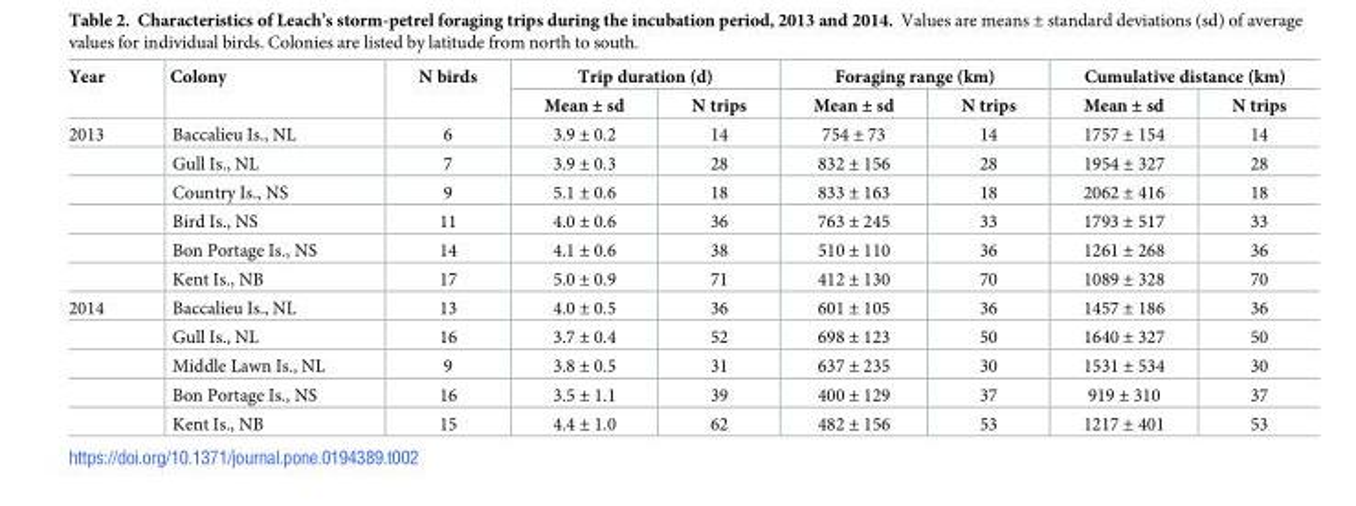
<table><thead><tr><td rowspan="2">Year</td><td rowspan="2">Colony</td><td rowspan="2">N birds</td><td colspan="2">Trip duration (d)</td><td colspan="2">Foraging range (km)</td><td colspan="2">Cumulative distance (km)</td></tr><tr><td>Mean ± sd</td><td>N trips</td><td>Mean ± sd</td><td>N trips</td><td>Mean ± sd</td><td>N trips</td></tr></thead><tbody><tr><td rowspan="6">2013</td><td>Baccalieu Is., NL</td><td>6</td><td>3.9 ± 0.2</td><td>14</td><td>754 ± 73</td><td>14</td><td>1757 ± 154</td><td>14</td></tr><tr><td>Gull Is., NL</td><td>7</td><td>3.9 ± 0.3</td><td>28</td><td>832 ± 156</td><td>28</td><td>1954 ± 327</td><td>28</td></tr><tr><td>Country Is., NS</td><td>9</td><td>5.1 ± 0.6</td><td>18</td><td>833 ± 163</td><td>18</td><td>2062 ± 416</td><td>18</td></tr><tr><td>Bird Is., NS</td><td>11</td><td>4.0 ± 0.6</td><td>36</td><td>763 ± 245</td><td>33</td><td>1793 ± 517</td><td>33</td></tr><tr><td>Bon Portage Is., NS</td><td>14</td><td>4.1 ± 0.6</td><td>38</td><td>510 ± 110</td><td>36</td><td>1261 ± 268</td><td>36</td></tr><tr><td>Kent Is., NB</td><td>17</td><td>5.0 ± 0.9</td><td>71</td><td>412 ± 130</td><td>70</td><td>1089 ± 328</td><td>70</td></tr><tr><td rowspan="5">2014</td><td>Baccalieu Is., NL</td><td>13</td><td>4.0 ± 0.5</td><td>36</td><td>601 ± 105</td><td>36</td><td>1457 ± 186</td><td>36</td></tr><tr><td>Gull Is., NL</td><td>16</td><td>3.7 ± 0.4</td><td>52</td><td>698 ± 123</td><td>50</td><td>1640 ± 327</td><td>50</td></tr><tr><td>Middle Lawn Is., NL</td><td>9</td><td>3.8 ± 0.5</td><td>31</td><td>637 ± 235</td><td>30</td><td>1531 ± 534</td><td>30</td></tr><tr><td>Bon Portage Is., NS</td><td>16</td><td>3.5 ± 1.1</td><td>39</td><td>400 ± 129</td><td>37</td><td>919 ± 310</td><td>37</td></tr><tr><td>Kent Is., NB</td><td>15</td><td>4.4 ± 1.0</td><td>62</td><td>482 ± 156</td><td>53</td><td>1217 ± 401</td><td>53</td></tr></tbody></table>